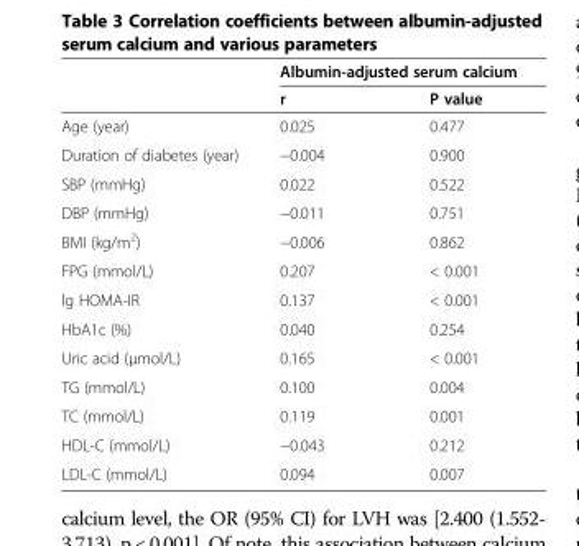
<table><thead><tr><td rowspan="2"></td><td colspan="2">Albumin-adjusted serum calcium</td></tr><tr><td>r</td><td>P value</td></tr></thead><tbody><tr><td>Age (year)</td><td>0.025</td><td>0.477</td></tr><tr><td>Duration of diabetes (year)</td><td>−0.004</td><td>0.900</td></tr><tr><td>SBP (mmHg)</td><td>0.022</td><td>0.522</td></tr><tr><td>DBP (mmHg)</td><td>−0.011</td><td>0.751</td></tr><tr><td>BMI (kg/m<sup>2</sup>)</td><td>−0.006</td><td>0.862</td></tr><tr><td>FPG (mmol/L)</td><td>0.207</td><td>&lt; 0.001</td></tr><tr><td>lg HOMA-IR</td><td>0.137</td><td>&lt; 0.001</td></tr><tr><td>HbA1c (%)</td><td>0.040</td><td>0.254</td></tr><tr><td>Uric acid (μmol/L)</td><td>0.165</td><td>&lt; 0.001</td></tr><tr><td>TG (mmol/L)</td><td>0.100</td><td>0.004</td></tr><tr><td>TC (mmol/L)</td><td>0.119</td><td>0.001</td></tr><tr><td>HDL-C (mmol/L)</td><td>−0.043</td><td>0.212</td></tr><tr><td>LDL-C (mmol/L)</td><td>0.094</td><td>0.007</td></tr></tbody></table>